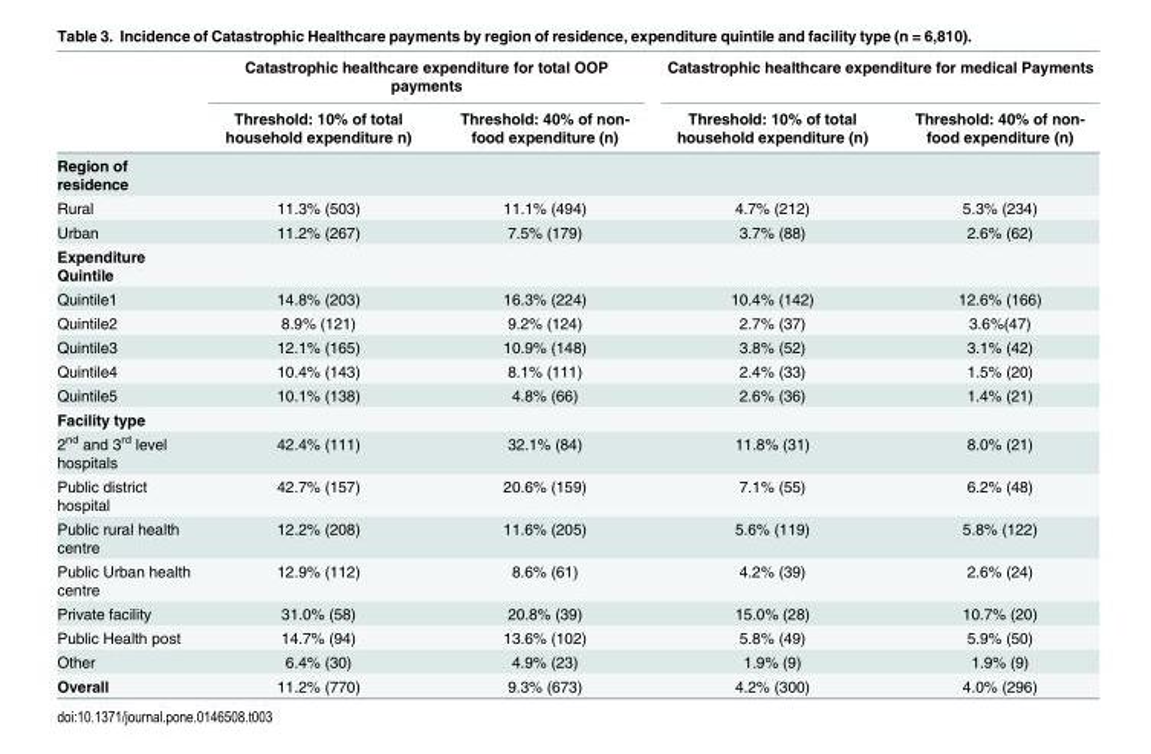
<table><thead><tr><td rowspan="2"></td><td colspan="2">Catastrophic healthcare expenditure for total OOP payments</td><td colspan="2">Catastrophic healthcare expenditure for medical Payments</td></tr><tr><td>Threshold: 10% of total household expenditure n)</td><td>Threshold: 40% of non- food expenditure (n)</td><td>Threshold: 10% of total household expenditure (n)</td><td>Threshold: 40% of non- food expenditure (n)</td></tr></thead><tbody><tr><td colspan="5">Region of residence</td></tr><tr><td>Rural</td><td>11.3% (503)</td><td>11.1% (494)</td><td>4.7% (212)</td><td>5.3% (234)</td></tr><tr><td>Urban</td><td>11.2% (267)</td><td>7.5% (179)</td><td>3.7% (88)</td><td>2.6% (62)</td></tr><tr><td colspan="5">Expenditure Quintile</td></tr><tr><td>Quintile1</td><td>14.8% (203)</td><td>16.3% (224)</td><td>10.4% (142)</td><td>12.6% (166)</td></tr><tr><td>Quintile2</td><td>8.9% (121)</td><td>9.2% (124)</td><td>2.7% (37)</td><td>3.6%(47)</td></tr><tr><td>Quintile3</td><td>12.1% (165)</td><td>10.9% (148)</td><td>3.8% (52)</td><td>3.1% (42)</td></tr><tr><td>Quintile4</td><td>10.4% (143)</td><td>8.1% (111)</td><td>2.4% (33)</td><td>1.5% (20)</td></tr><tr><td>Quintile5</td><td>10.1% (138)</td><td>4.8% (66)</td><td>2.6% (36)</td><td>1.4% (21)</td></tr><tr><td colspan="5">Facility type</td></tr><tr><td>2<sup>nd</sup> and 3<sup>rd</sup> level hospitals</td><td>42.4% (111)</td><td>32.1% (84)</td><td>11.8% (31)</td><td>8.0% (21)</td></tr><tr><td>Public district hospital</td><td>42.7% (157)</td><td>20.6% (159)</td><td>7.1% (55)</td><td>6.2% (48)</td></tr><tr><td>Public rural health centre</td><td>12.2% (208)</td><td>11.6% (205)</td><td>5.6% (119)</td><td>5.8% (122)</td></tr><tr><td>Public Urban health centre</td><td>12.9% (112)</td><td>8.6% (61)</td><td>4.2% (39)</td><td>2.6% (24)</td></tr><tr><td>Private facility</td><td>31.0% (58)</td><td>20.8% (39)</td><td>15.0% (28)</td><td>10.7% (20)</td></tr><tr><td>Public Health post</td><td>14.7% (94)</td><td>13.6% (102)</td><td>5.8% (49)</td><td>5.9% (50)</td></tr><tr><td>Other</td><td>6.4% (30)</td><td>4.9% (23)</td><td>1.9% (9)</td><td>1.9% (9)</td></tr><tr><td>Overall</td><td>11.2% (770)</td><td>9.3% (673)</td><td>4.2% (300)</td><td>4.0% (296)</td></tr></tbody></table>